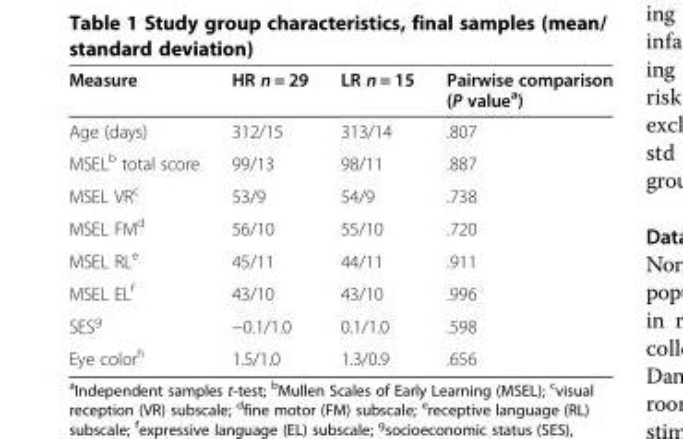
<table><thead><tr><td>Measure</td><td>HR n = 29</td><td>LR n = 15</td><td>Pairwise comparison (P value<sup>a</sup>)</td></tr></thead><tbody><tr><td>Age (days)</td><td>312/15</td><td>313/14</td><td>.807</td></tr><tr><td>MSEL<sup>b</sup> total score</td><td>99/13</td><td>98/11</td><td>.887</td></tr><tr><td>MSEL VR<sup>c</sup></td><td>53/9</td><td>54/9</td><td>.738</td></tr><tr><td>MSEL FM<sup>d</sup></td><td>56/10</td><td>55/10</td><td>.720</td></tr><tr><td>MSEL RL<sup>e</sup></td><td>45/11</td><td>44/11</td><td>.911</td></tr><tr><td>MSEL EL<sup>f</sup></td><td>43/10</td><td>43/10</td><td>.996</td></tr><tr><td>SES<sup>g</sup></td><td>−0.1/1.0</td><td>0.1/1.0</td><td>.598</td></tr><tr><td>Eye color<sup>h</sup></td><td>1.5/1.0</td><td>1.3/0.9</td><td>.656</td></tr></tbody></table>